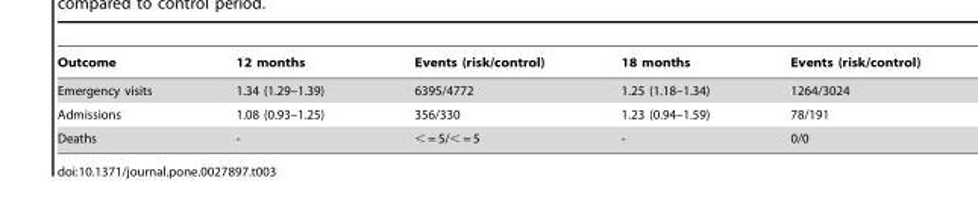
<table><thead><tr><td>Outcome</td><td>12 months</td><td>Events (risk/control)</td><td>18 months</td><td>Events (risk/control)</td></tr></thead><tbody><tr><td>Emergency visits</td><td>1.34 (1.29–1.39)</td><td>6395/4772</td><td>1.25 (1.18–1.34)</td><td>1264/3024</td></tr><tr><td>Admissions</td><td>1.08 (0.93–1.25)</td><td>356/330</td><td>1.23 (0.94–1.59)</td><td>78/191</td></tr><tr><td>Deaths</td><td>-</td><td>&lt; = 5/&lt; = 5</td><td>-</td><td>0/0</td></tr></tbody></table>